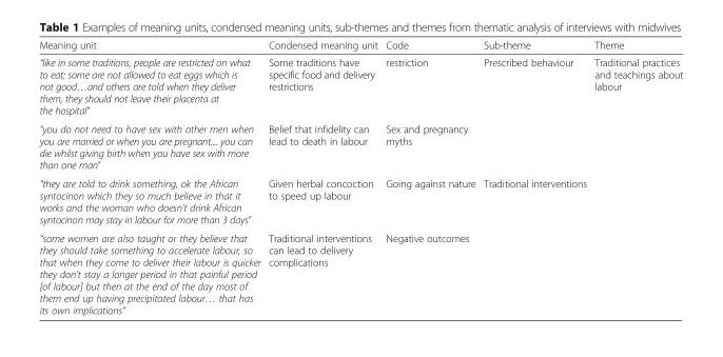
<table><thead><tr><td>Meaning unit</td><td>Condensed meaning unit</td><td>Code</td><td>Sub-theme</td><td>Theme</td></tr></thead><tbody><tr><td>“like in some traditions, people are restricted on what to eat; some are not allowed to eat eggs which is not good…and others are told when they deliver them, they should not leave their placenta at the hospital”</td><td>Some traditions have specific food and delivery restrictions</td><td>restriction</td><td rowspan="2">Prescribed behaviour</td><td rowspan="4">Traditional practices and teachings about labour</td></tr><tr><td>“you do not need to have sex with other men when you are married or when you are pregnant.... you can die whilst giving birth when you have sex with more than one man”</td><td>Belief that infidelity can lead to death in labour</td><td>Sex and pregnancy myths</td></tr><tr><td>“they are told to drink something, ok the African syntocinon which they so much believe in that it works and the woman who doesn’t drink African syntocinon may stay in labour for more than 3 days”</td><td>Given herbal concoction to speed up labour</td><td>Going against nature</td><td rowspan="2">Traditional interventions</td></tr><tr><td>“some women are also taught or they believe that they should take something to accelerate labour, so that when they come to deliver their labour is quicker they don’t stay a longer period in that painful period [of labour] but then at the end of the day most of them end up having precipitated labour… that has its own implications”</td><td>Traditional interventions can lead to delivery complications</td><td>Negative outcomes</td></tr></tbody></table>